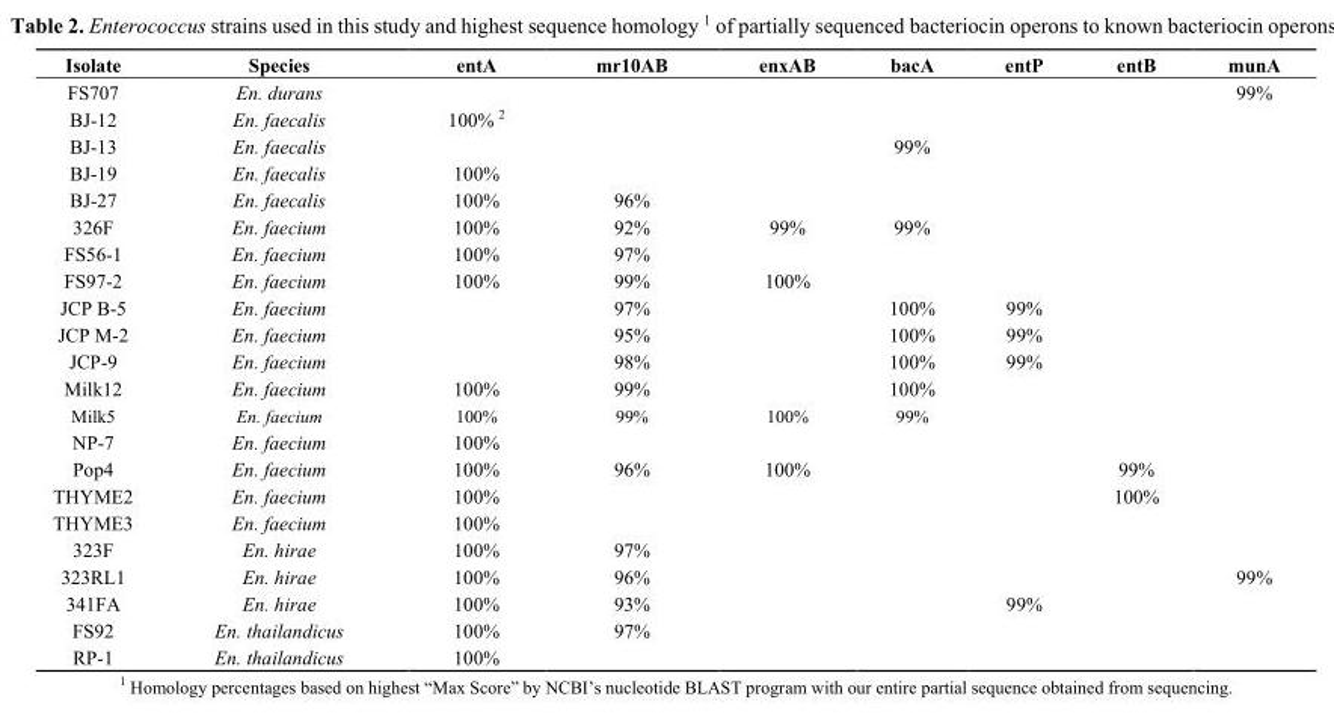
<table><thead><tr><td>Isolate</td><td>Species</td><td>entA</td><td>mr10AB</td><td>enxAB</td><td>bacA</td><td>entP</td><td>entB</td><td>munA</td></tr></thead><tbody><tr><td>FS707</td><td>En. durans</td><td></td><td></td><td></td><td></td><td></td><td></td><td>99%</td></tr><tr><td>BJ-12</td><td>En. faecalis</td><td>100% <sup>2</sup></td><td></td><td></td><td></td><td></td><td></td><td></td></tr><tr><td>BJ-13</td><td>En. faecalis</td><td></td><td></td><td></td><td>99%</td><td></td><td></td><td></td></tr><tr><td>BJ-19</td><td>En. faecalis</td><td>100%</td><td></td><td></td><td></td><td></td><td></td><td></td></tr><tr><td>BJ-27</td><td>En. faecalis</td><td>100%</td><td>96%</td><td></td><td></td><td></td><td></td><td></td></tr><tr><td>326F</td><td>En. faecium</td><td>100%</td><td>92%</td><td>99%</td><td>99%</td><td></td><td></td><td></td></tr><tr><td>FS56-1</td><td>En. faecium</td><td>100%</td><td>97%</td><td></td><td></td><td></td><td></td><td></td></tr><tr><td>FS97-2</td><td>En. faecium</td><td>100%</td><td>99%</td><td>100%</td><td></td><td></td><td></td><td></td></tr><tr><td>JCP B-5</td><td>En. faecium</td><td></td><td>97%</td><td></td><td>100%</td><td>99%</td><td></td><td></td></tr><tr><td>JCP M-2</td><td>En. faecium</td><td></td><td>95%</td><td></td><td>100%</td><td>99%</td><td></td><td></td></tr><tr><td>JCP-9</td><td>En. faecium</td><td></td><td>98%</td><td></td><td>100%</td><td>99%</td><td></td><td></td></tr><tr><td>Milk12</td><td>En. faecium</td><td>100%</td><td>99%</td><td></td><td>100%</td><td></td><td></td><td></td></tr><tr><td>Milk5</td><td>En. faecium</td><td>100%</td><td>99%</td><td>100%</td><td>99%</td><td></td><td></td><td></td></tr><tr><td>NP-7</td><td>En. faecium</td><td>100%</td><td></td><td></td><td></td><td></td><td></td><td></td></tr><tr><td>Pop4</td><td>En. faecium</td><td>100%</td><td>96%</td><td>100%</td><td></td><td></td><td>99%</td><td></td></tr><tr><td>THYME2</td><td>En. faecium</td><td>100%</td><td></td><td></td><td></td><td></td><td>100%</td><td></td></tr><tr><td>THYME3</td><td>En. faecium</td><td>100%</td><td></td><td></td><td></td><td></td><td></td><td></td></tr><tr><td>323F</td><td>En. hirae</td><td>100%</td><td>97%</td><td></td><td></td><td></td><td></td><td></td></tr><tr><td>323RL1</td><td>En. hirae</td><td>100%</td><td>96%</td><td></td><td></td><td></td><td></td><td>99%</td></tr><tr><td>341FA</td><td>En. hirae</td><td>100%</td><td>93%</td><td></td><td></td><td>99%</td><td></td><td></td></tr><tr><td>FS92</td><td>En. thailandicus</td><td>100%</td><td>97%</td><td></td><td></td><td></td><td></td><td></td></tr><tr><td>RP-1</td><td>En. thailandicus</td><td>100%</td><td></td><td></td><td></td><td></td><td></td><td></td></tr></tbody></table>